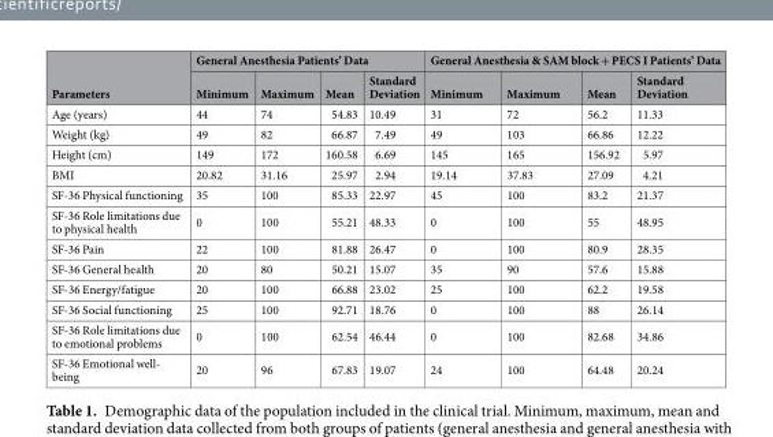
<table><thead><tr><td rowspan="2">Parameters</td><td colspan="4">General Anesthesia Patients’ Data</td><td colspan="4">General Anesthesia &amp; SAM block + PECS I Patients’ Data</td></tr><tr><td>Minimum</td><td>Maximum</td><td>Mean</td><td>Standard Deviation</td><td>Minimum</td><td>Maximum</td><td>Mean</td><td>Standard Deviation</td></tr></thead><tbody><tr><td>Age (years)</td><td>44</td><td>74</td><td>54.83</td><td>10.49</td><td>31</td><td>72</td><td>56.2</td><td>11.33</td></tr><tr><td>Weight (kg)</td><td>49</td><td>82</td><td>66.87</td><td>7.49</td><td>49</td><td>103</td><td>66.86</td><td>12.22</td></tr><tr><td>Height (cm)</td><td>149</td><td>172</td><td>160.58</td><td>6.69</td><td>145</td><td>165</td><td>156.92</td><td>5.97</td></tr><tr><td>BMI</td><td>20.82</td><td>31.16</td><td>25.97</td><td>2.94</td><td>19.14</td><td>37.83</td><td>27.09</td><td>4.21</td></tr><tr><td>SF-36 Physical functioning</td><td>35</td><td>100</td><td>85.33</td><td>22.97</td><td>45</td><td>100</td><td>83.2</td><td>21.37</td></tr><tr><td>SF-36 Role limitations due to physical health</td><td>0</td><td>100</td><td>55.21</td><td>48.33</td><td>0</td><td>100</td><td>55</td><td>48.95</td></tr><tr><td>SF-36 Pain</td><td>22</td><td>100</td><td>81.88</td><td>26.47</td><td>0</td><td>100</td><td>80.9</td><td>28.35</td></tr><tr><td>SF-36 General health</td><td>20</td><td>80</td><td>50.21</td><td>15.07</td><td>35</td><td>90</td><td>57.6</td><td>15.88</td></tr><tr><td>SF-36 Energy/fatigue</td><td>20</td><td>100</td><td>66.88</td><td>23.02</td><td>25</td><td>100</td><td>62.2</td><td>19.58</td></tr><tr><td>SF-36 Social functioning</td><td>25</td><td>100</td><td>92.71</td><td>18.76</td><td>0</td><td>100</td><td>88</td><td>26.14</td></tr><tr><td>SF-36 Role limitations due to emotional problems</td><td>0</td><td>100</td><td>62.54</td><td>46.44</td><td>0</td><td>100</td><td>82.68</td><td>34.86</td></tr><tr><td>SF-36 Emotional well- being</td><td>20</td><td>96</td><td>67.83</td><td>19.07</td><td>24</td><td>100</td><td>64.48</td><td>20.24</td></tr></tbody></table>